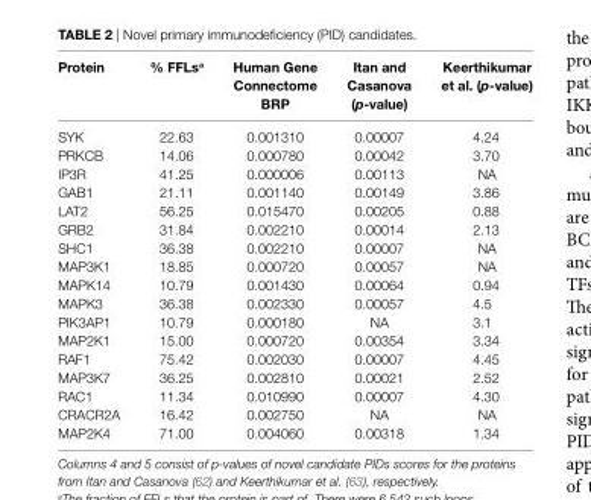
<table><thead><tr><td>Protein</td><td>% FFls<sup>a</sup></td><td>human gene connectome BrP</td><td>itan and casanova (p-value)</td><td>Keerthikumar et al. (p-value)</td></tr></thead><tbody><tr><td>SYK</td><td>22.63</td><td>0.001310</td><td>0.00007</td><td>4.24</td></tr><tr><td>PRKCB</td><td>14.06</td><td>0.000780</td><td>0.00042</td><td>3.70</td></tr><tr><td>IP3R</td><td>41.25</td><td>0.000006</td><td>0.00113</td><td>NA</td></tr><tr><td>GAB1</td><td>21.11</td><td>0.001140</td><td>0.00149</td><td>3.86</td></tr><tr><td>LAT2</td><td>56.25</td><td>0.015470</td><td>0.00205</td><td>0.88</td></tr><tr><td>GRB2</td><td>31.84</td><td>0.002210</td><td>0.00014</td><td>2.13</td></tr><tr><td>SHC1</td><td>36.38</td><td>0.002210</td><td>0.00007</td><td>NA</td></tr><tr><td>MAP3K1</td><td>18.85</td><td>0.000720</td><td>0.00057</td><td>NA</td></tr><tr><td>MAPK14</td><td>10.79</td><td>0.001430</td><td>0.00064</td><td>0.94</td></tr><tr><td>MAPK3</td><td>36.38</td><td>0.002330</td><td>0.00057</td><td>4.5</td></tr><tr><td>PIK3AP1</td><td>10.79</td><td>0.000180</td><td>NA</td><td>3.1</td></tr><tr><td>MAP2K1</td><td>15.00</td><td>0.000720</td><td>0.00354</td><td>3.34</td></tr><tr><td>RAF1</td><td>75.42</td><td>0.002030</td><td>0.00007</td><td>4.45</td></tr><tr><td>MAP3K7</td><td>36.25</td><td>0.002810</td><td>0.00021</td><td>2.52</td></tr><tr><td>RAC1</td><td>11.34</td><td>0.010990</td><td>0.00007</td><td>4.30</td></tr><tr><td>CRACR2A</td><td>16.42</td><td>0.002750</td><td>NA</td><td>NA</td></tr><tr><td>MAP2K4</td><td>71.00</td><td>0.004060</td><td>0.00318</td><td>1.34</td></tr></tbody></table>